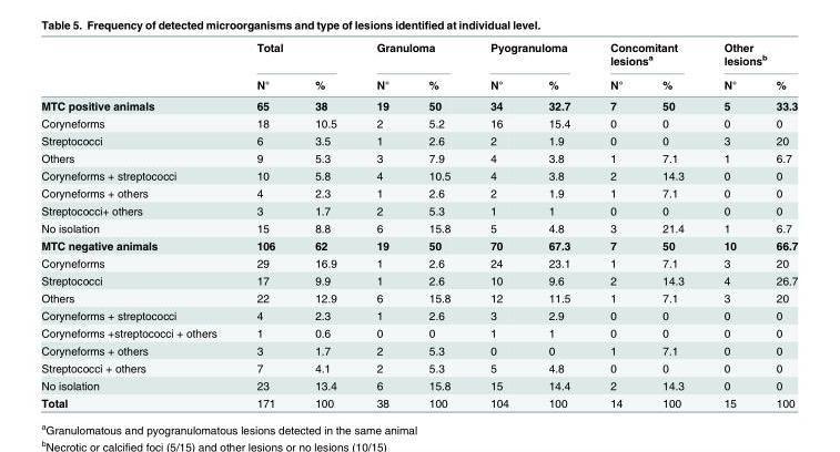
<table><thead><tr><td rowspan="2"></td><td colspan="2">Total</td><td colspan="2">Granuloma</td><td colspan="2">Pyogranuloma</td><td colspan="2">Concomitant lesions<sup>a</sup></td><td colspan="2">Other lesions<sup>b</sup></td></tr><tr><td>N°</td><td>%</td><td>N°</td><td>%</td><td>N°</td><td>%</td><td>N°</td><td>%</td><td>N°</td><td>%</td></tr></thead><tbody><tr><td>MTC positive animals</td><td>65</td><td>38</td><td>19</td><td>50</td><td>34</td><td>32.7</td><td>7</td><td>50</td><td>5</td><td>33.3</td></tr><tr><td>Coryneforms</td><td>18</td><td>10.5</td><td>2</td><td>5.2</td><td>16</td><td>15.4</td><td>0</td><td>0</td><td>0</td><td>0</td></tr><tr><td>Streptococci</td><td>6</td><td>3.5</td><td>1</td><td>2.6</td><td>2</td><td>1.9</td><td>0</td><td>0</td><td>3</td><td>20</td></tr><tr><td>Others</td><td>9</td><td>5.3</td><td>3</td><td>7.9</td><td>4</td><td>3.8</td><td>1</td><td>7.1</td><td>1</td><td>6.7</td></tr><tr><td>Coryneforms + streptococci</td><td>10</td><td>5.8</td><td>4</td><td>10.5</td><td>4</td><td>3.8</td><td>2</td><td>14.3</td><td>0</td><td>0</td></tr><tr><td>Coryneforms + others</td><td>4</td><td>2.3</td><td>1</td><td>2.6</td><td>2</td><td>1.9</td><td>1</td><td>7.1</td><td>0</td><td>0</td></tr><tr><td>Streptococci+ others</td><td>3</td><td>1.7</td><td>2</td><td>5.3</td><td>1</td><td>1</td><td>0</td><td>0</td><td>0</td><td>0</td></tr><tr><td>No isolation</td><td>15</td><td>8.8</td><td>6</td><td>15.8</td><td>5</td><td>4.8</td><td>3</td><td>21.4</td><td>1</td><td>6.7</td></tr><tr><td>MTC negative animals</td><td>106</td><td>62</td><td>19</td><td>50</td><td>70</td><td>67.3</td><td>7</td><td>50</td><td>10</td><td>66.7</td></tr><tr><td>Coryneforms</td><td>29</td><td>16.9</td><td>1</td><td>2.6</td><td>24</td><td>23.1</td><td>1</td><td>7.1</td><td>3</td><td>20</td></tr><tr><td>Streptococci</td><td>17</td><td>9.9</td><td>1</td><td>2.6</td><td>10</td><td>9.6</td><td>2</td><td>14.3</td><td>4</td><td>26.7</td></tr><tr><td>Others</td><td>22</td><td>12.9</td><td>6</td><td>15.8</td><td>12</td><td>11.5</td><td>1</td><td>7.1</td><td>3</td><td>20</td></tr><tr><td>Coryneforms + streptococci</td><td>4</td><td>2.3</td><td>1</td><td>2.6</td><td>3</td><td>2.9</td><td>0</td><td>0</td><td>0</td><td>0</td></tr><tr><td>Coryneforms +streptococci + others</td><td>1</td><td>0.6</td><td>0</td><td>0</td><td>1</td><td>1</td><td>0</td><td>0</td><td>0</td><td>0</td></tr><tr><td>Coryneforms + others</td><td>3</td><td>1.7</td><td>2</td><td>5.3</td><td>0</td><td>0</td><td>1</td><td>7.1</td><td>0</td><td>0</td></tr><tr><td>Streptococci + others</td><td>7</td><td>4.1</td><td>2</td><td>5.3</td><td>5</td><td>4.8</td><td>0</td><td>0</td><td>0</td><td>0</td></tr><tr><td>No isolation</td><td>23</td><td>13.4</td><td>6</td><td>15.8</td><td>15</td><td>14.4</td><td>2</td><td>14.3</td><td>0</td><td>0</td></tr><tr><td>Total</td><td>171</td><td>100</td><td>38</td><td>100</td><td>104</td><td>100</td><td>14</td><td>100</td><td>15</td><td>100</td></tr></tbody></table>